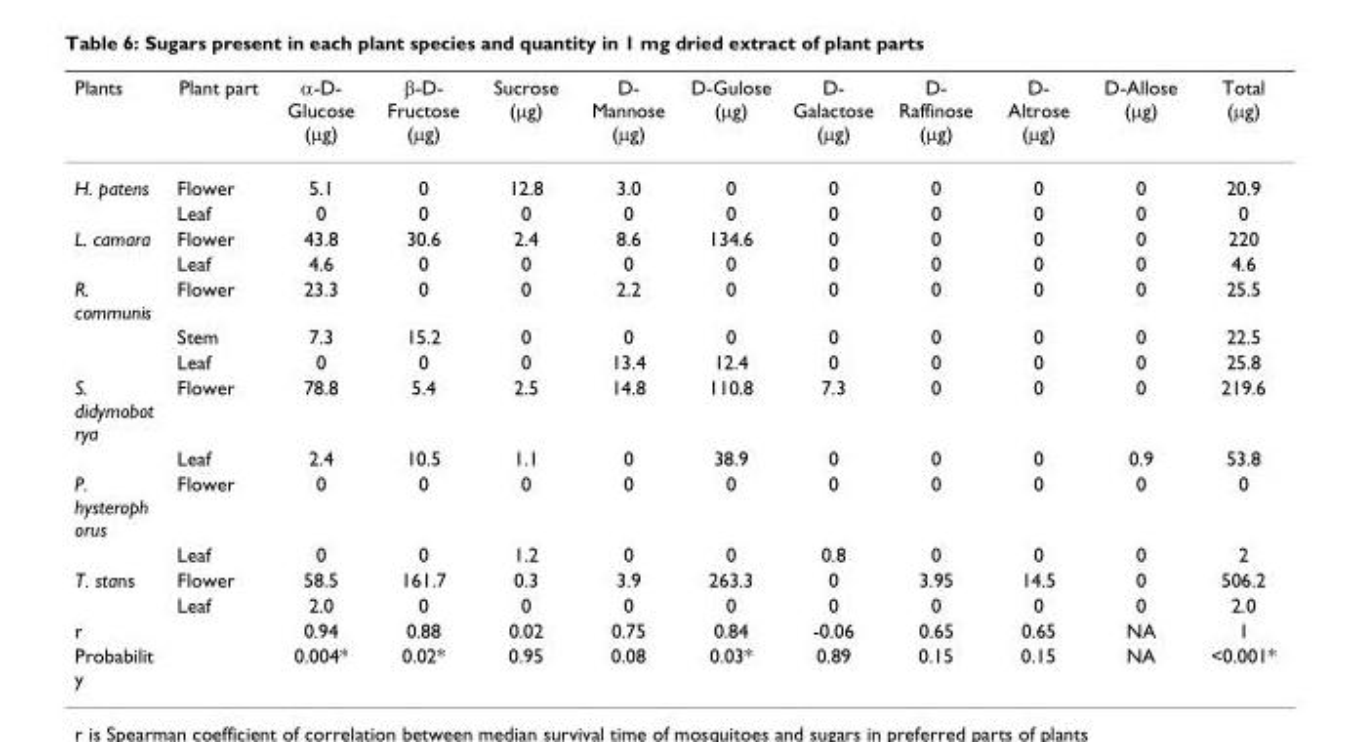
<table><thead><tr><td>Plants</td><td>Plant part</td><td>α-D- Glucose (µg)</td><td>β-D- Fructose (µg)</td><td>Sucrose (µg)</td><td>D- Mannose (µg)</td><td>D-Gulose (µg)</td><td>D- Galactose (µg)</td><td>D- Raffinose (µg)</td><td>D- Altrose (µg)</td><td>D-Allose (µg)</td><td>Total (µg)</td></tr></thead><tbody><tr><td rowspan="2">H. patens</td><td>Flower</td><td>5.1</td><td>0</td><td>12.8</td><td>3.0</td><td>0</td><td>0</td><td>0</td><td>0</td><td>0</td><td>20.9</td></tr><tr><td>Leaf</td><td>0</td><td>0</td><td>0</td><td>0</td><td>0</td><td>0</td><td>0</td><td>0</td><td>0</td><td>0</td></tr><tr><td rowspan="2">L. camara</td><td>Flower</td><td>43.8</td><td>30.6</td><td>2.4</td><td>8.6</td><td>134.6</td><td>0</td><td>0</td><td>0</td><td>0</td><td>220</td></tr><tr><td>Leaf</td><td>4.6</td><td>0</td><td>0</td><td>0</td><td>0</td><td>0</td><td>0</td><td>0</td><td>0</td><td>4.6</td></tr><tr><td rowspan="3">R. communis</td><td>Flower</td><td>23.3</td><td>0</td><td>0</td><td>2.2</td><td>0</td><td>0</td><td>0</td><td>0</td><td>0</td><td>25.5</td></tr><tr><td>Stem</td><td>7.3</td><td>15.2</td><td>0</td><td>0</td><td>0</td><td>0</td><td>0</td><td>0</td><td>0</td><td>22.5</td></tr><tr><td>Leaf</td><td>0</td><td>0</td><td>0</td><td>13.4</td><td>12.4</td><td>0</td><td>0</td><td>0</td><td>0</td><td>25.8</td></tr><tr><td rowspan="2">S. didymobot rya</td><td>Flower</td><td>78.8</td><td>5.4</td><td>2.5</td><td>14.8</td><td>110.8</td><td>7.3</td><td>0</td><td>0</td><td>0</td><td>219.6</td></tr><tr><td>Leaf</td><td>2.4</td><td>10.5</td><td>1.1</td><td>0</td><td>38.9</td><td>0</td><td>0</td><td>0</td><td>0.9</td><td>53.8</td></tr><tr><td rowspan="2">P. hysteroph orus</td><td>Flower</td><td>0</td><td>0</td><td>0</td><td>0</td><td>0</td><td>0</td><td>0</td><td>0</td><td>0</td><td>0</td></tr><tr><td>Leaf</td><td>0</td><td>0</td><td>1.2</td><td>0</td><td>0</td><td>0.8</td><td>0</td><td>0</td><td>0</td><td>2</td></tr><tr><td rowspan="2">T. stans</td><td>Flower</td><td>58.5</td><td>161.7</td><td>0.3</td><td>3.9</td><td>263.3</td><td>0</td><td>3.95</td><td>14.5</td><td>0</td><td>506.2</td></tr><tr><td>Leaf</td><td>2.0</td><td>0</td><td>0</td><td>0</td><td>0</td><td>0</td><td>0</td><td>0</td><td>0</td><td>2.0</td></tr><tr><td>r</td><td></td><td>0.94</td><td>0.88</td><td>0.02</td><td>0.75</td><td>0.84</td><td>-0.06</td><td>0.65</td><td>0.65</td><td>NA</td><td>1</td></tr><tr><td>Probabilit</td><td></td><td>0.004*</td><td>0.02*</td><td>0.95</td><td>0.08</td><td>0.03*</td><td>0.89</td><td>0.15</td><td>0.15</td><td>NA</td><td>&lt;0.001*</td></tr></tbody></table>